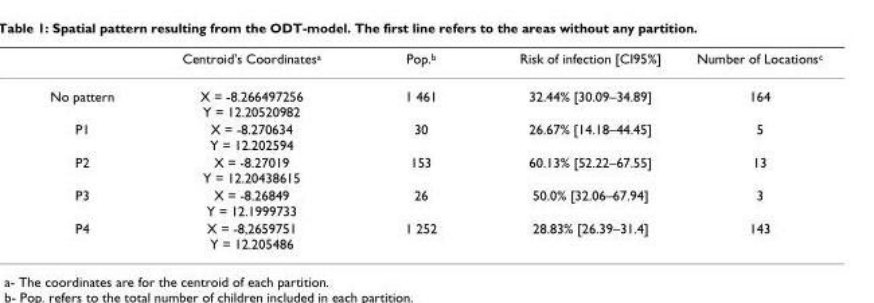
<table><thead><tr><td></td><td>Centroid&#x27;s Coordinates<sup>a</sup></td><td>Pop.<sup>b</sup></td><td>Risk of infection [CI95%]</td><td>Number of Locations<sup>c</sup></td></tr></thead><tbody><tr><td>No pattern</td><td>X = -8.266497256 Y = 12.20520982</td><td>1 461</td><td>32.44% [30.09–34.89]</td><td>164</td></tr><tr><td>P1</td><td>X = -8.270634 Y = 12.202594</td><td>30</td><td>26.67% [14.18–44.45]</td><td>5</td></tr><tr><td>P2</td><td>X = -8.27019 Y = 12.20438615</td><td>153</td><td>60.13% [52.22–67.55]</td><td>13</td></tr><tr><td>P3</td><td>X = -8.26849 Y = 12.1999733</td><td>26</td><td>50.0% [32.06–67.94]</td><td>3</td></tr><tr><td>P4</td><td>X = -8,2659751 Y = 12.205486</td><td>1 252</td><td>28.83% [26.39–31.4]</td><td>143</td></tr></tbody></table>